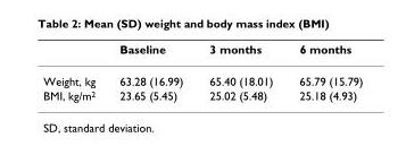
<table><thead><tr><td></td><td>Baseline</td><td>3 months</td><td>6 months</td></tr></thead><tbody><tr><td>Weight, kg</td><td>63.28 (16.99)</td><td>65.40 (18.01)</td><td>65.79 (15.79)</td></tr><tr><td>BMI, kg/m<sup>2</sup></td><td>23.65 (5.45)</td><td>25.02 (5.48)</td><td>25.18 (4.93)</td></tr></tbody></table>